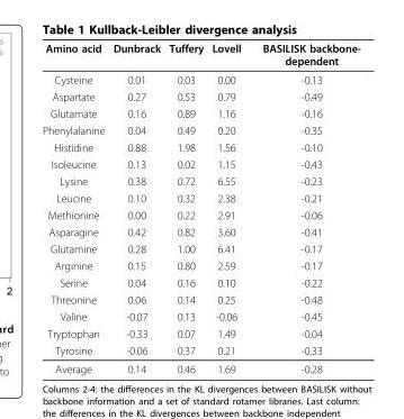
<table><thead><tr><td>Amino acid</td><td>Dunbrack</td><td>Tuffery</td><td>Lovell</td><td>BASILISK backbone- dependent</td></tr></thead><tbody><tr><td>Cysteine</td><td>0.01</td><td>0.03</td><td>0.00</td><td>-0.13</td></tr><tr><td>Aspartate</td><td>0.27</td><td>0.53</td><td>0.79</td><td>-0.49</td></tr><tr><td>Glutamate</td><td>0.16</td><td>0.89</td><td>1.16</td><td>-0.16</td></tr><tr><td>Phenylalanine</td><td>0.04</td><td>0.49</td><td>0.20</td><td>-0.35</td></tr><tr><td>Histidine</td><td>0.88</td><td>1.98</td><td>1.56</td><td>-0.10</td></tr><tr><td>Isoleucine</td><td>0.13</td><td>0.02</td><td>1.15</td><td>-0.43</td></tr><tr><td>Lysine</td><td>0.38</td><td>0.72</td><td>6.55</td><td>-0.23</td></tr><tr><td>Leucine</td><td>0.10</td><td>0.32</td><td>2.38</td><td>-0.21</td></tr><tr><td>Methionine</td><td>0.00</td><td>0.22</td><td>2.91</td><td>-0.06</td></tr><tr><td>Asparagine</td><td>0.42</td><td>0.82</td><td>3.60</td><td>-0.41</td></tr><tr><td>Glutamine</td><td>0.28</td><td>1.00</td><td>6.41</td><td>-0.17</td></tr><tr><td>Arginine</td><td>0.15</td><td>0.80</td><td>2.59</td><td>-0.17</td></tr><tr><td>Serine</td><td>0.04</td><td>0.16</td><td>0.10</td><td>-0.22</td></tr><tr><td>Threonine</td><td>0.06</td><td>0.14</td><td>0.25</td><td>-0.48</td></tr><tr><td>Valine</td><td>-0.07</td><td>0.13</td><td>-0.06</td><td>-0.45</td></tr><tr><td>Tryptophan</td><td>-0.33</td><td>0.07</td><td>1.49</td><td>-0.04</td></tr><tr><td>Tyrosine</td><td>-0.06</td><td>0.37</td><td>0.21</td><td>-0.33</td></tr><tr><td>Average</td><td>0.14</td><td>0.46</td><td>1.69</td><td>-0.28</td></tr></tbody></table>